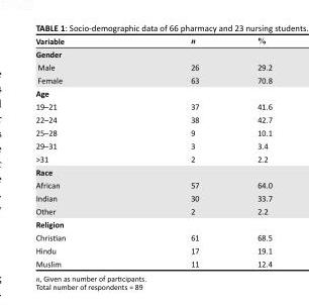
<table><thead><tr><td>Variable</td><td>n</td><td>%</td></tr></thead><tbody><tr><td colspan="3">Gender</td></tr><tr><td>Male</td><td>26</td><td>29.2</td></tr><tr><td>Female</td><td>63</td><td>70.8</td></tr><tr><td colspan="3">Age</td></tr><tr><td>19–21</td><td>37</td><td>41.6</td></tr><tr><td>22–24</td><td>38</td><td>42.7</td></tr><tr><td>25–28</td><td>9</td><td>10.1</td></tr><tr><td>29–31</td><td>3</td><td>3.4</td></tr><tr><td>&gt;31</td><td>2</td><td>2.2</td></tr><tr><td colspan="3">Race</td></tr><tr><td>African</td><td>57</td><td>64.0</td></tr><tr><td>Indian</td><td>30</td><td>33.7</td></tr><tr><td>Other</td><td>2</td><td>2.2</td></tr><tr><td colspan="3">Religion</td></tr><tr><td>Christian</td><td>61</td><td>68.5</td></tr><tr><td>Hindu</td><td>17</td><td>19.1</td></tr><tr><td>Muslim</td><td>11</td><td>12.4</td></tr></tbody></table>